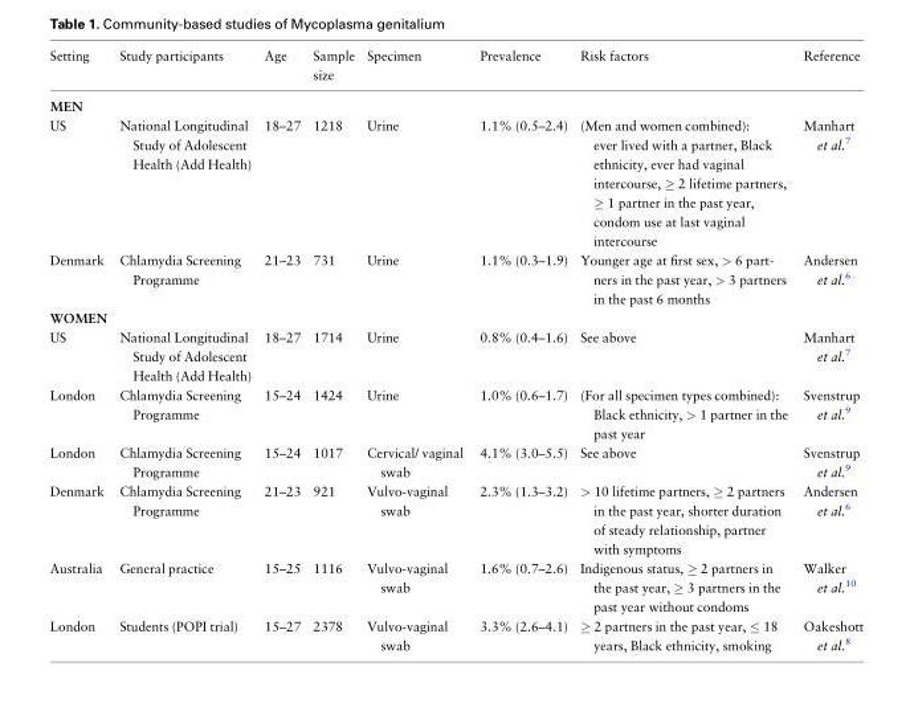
<table><thead><tr><td>Setting</td><td>Study participants</td><td>Age</td><td>Sample size</td><td>Specimen</td><td>Prevalence</td><td>Risk factors</td><td>Reference</td></tr></thead><tbody><tr><td colspan="8">MEN</td></tr><tr><td>US</td><td>National Longitudinal Study of Adolescent Health (Add Health)</td><td>18–27</td><td>1218</td><td>Urine</td><td>1.1% (0.5–2.4)</td><td>(Men and women combined): ever lived with a partner, Black ethnicity, ever had vaginal intercourse, ≥ 2 lifetime partners, ≥ 1 partner in the past year, condom use at last vaginal intercourse</td><td>Manhart et al.<sup>7</sup></td></tr><tr><td>Denmark</td><td>Chlamydia Screening Programme</td><td>21–23</td><td>731</td><td>Urine</td><td>1.1% (0.3–1.9)</td><td>Younger age at first sex, &gt; 6 part- ners in the past year, &gt; 3 partners in the past 6 months</td><td>Andersen et al.<sup>6</sup></td></tr><tr><td colspan="8">WOMEN</td></tr><tr><td>US</td><td>National Longitudinal Study of Adolescent Health (Add Health)</td><td>18–27</td><td>1714</td><td>Urine</td><td>0.8% (0.4–1.6)</td><td>See above</td><td>Manhart et al.<sup>7</sup></td></tr><tr><td>London</td><td>Chlamydia Screening Programme</td><td>15–24</td><td>1424</td><td>Urine</td><td>1.0% (0.6–1.7)</td><td>(For all specimen types combined): Black ethnicity, &gt; 1 partner in the past year</td><td>Svenstrup et al.<sup>9</sup></td></tr><tr><td>London</td><td>Chlamydia Screening Programme</td><td>15–24</td><td>1017</td><td>Cervical/ vaginal swab</td><td>4.1% (3.0–5.5)</td><td>See above</td><td>Svenstrup et al.<sup>9</sup></td></tr><tr><td>Denmark</td><td>Chlamydia Screening Programme</td><td>21–23</td><td>921</td><td>Vulvo-vaginal swab</td><td>2.3% (1.3–3.2)</td><td>&gt; 10 lifetime partners, ≥ 2 partners in the past year, shorter duration of steady relationship, partner with symptoms</td><td>Andersen et al.<sup>6</sup></td></tr><tr><td>Australia</td><td>General practice</td><td>15–25</td><td>1116</td><td>Vulvo-vaginal swab</td><td>1.6% (0.7–2.6)</td><td>Indigenous status, ≥ 2 partners in the past year, ≥ 3 partners in the past year without condoms</td><td>Walker et al.<sup>10</sup></td></tr><tr><td>London</td><td>Students (POPI trial)</td><td>15–27</td><td>2378</td><td>Vulvo-vaginal swab</td><td>3.3% (2.6–4.1)</td><td>≥ 2 partners in the past year, ≤ 18 years, Black ethnicity, smoking</td><td>Oakeshott et al.<sup>8</sup></td></tr></tbody></table>